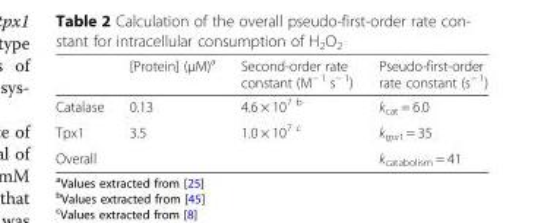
<table><thead><tr><td></td><td>[Protein] (μM)<sup>a</sup></td><td>Second-order rate constant (M<sup>− 1</sup> s<sup>− 1</sup>)</td><td>Pseudo-first-order rate constant (s<sup>− 1</sup>)</td></tr></thead><tbody><tr><td>Catalase</td><td>0.13</td><td>4.6 × 10<sup>7 b</sup></td><td>k<sub>cat</sub> = 6.0</td></tr><tr><td>Tpx1</td><td>3.5</td><td>1.0 × 10<sup>7 c</sup></td><td>k<sub>tpx1</sub> = 35</td></tr><tr><td>Overall</td><td></td><td></td><td>k<sub>catabolism</sub> = 41</td></tr></tbody></table>